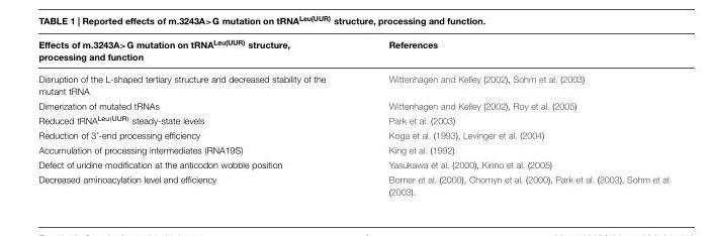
<table><thead><tr><td>Effects of m.3243A&gt;G mutation on tRNA<sup>Leu(UUR)</sup> structure, processing and function</td><td>References</td></tr></thead><tbody><tr><td>Disruption of the L-shaped tertiary structure and decreased stability of the mutant tRNA</td><td>Wittenhagen and Kelley (2002), Sohm et al. (2003)</td></tr><tr><td>Dimerization of mutated tRNAs</td><td>Wittenhagen and Kelley (2002), Roy et al. (2005)</td></tr><tr><td>Reduced tRNA<sup>Leu(UUR)</sup> steady-state levels</td><td>Park et al. (2003)</td></tr><tr><td>Reduction of 3’-end processing efficiency</td><td>Koga et al. (1993), Levinger et al. (2004)</td></tr><tr><td>Accumulation of processing intermediates (RNA19S)</td><td>King et al. (1992)</td></tr><tr><td>Defect of uridine modification at the anticodon wobble position</td><td>Yasukawa et al. (2000), Kirino et al. (2005)</td></tr><tr><td>Decreased aminoacylation level and efficiency</td><td>Borner et al. (2000), Chomyn et al. (2000), Park et al. (2003), Sohm et al. (2003).</td></tr></tbody></table>